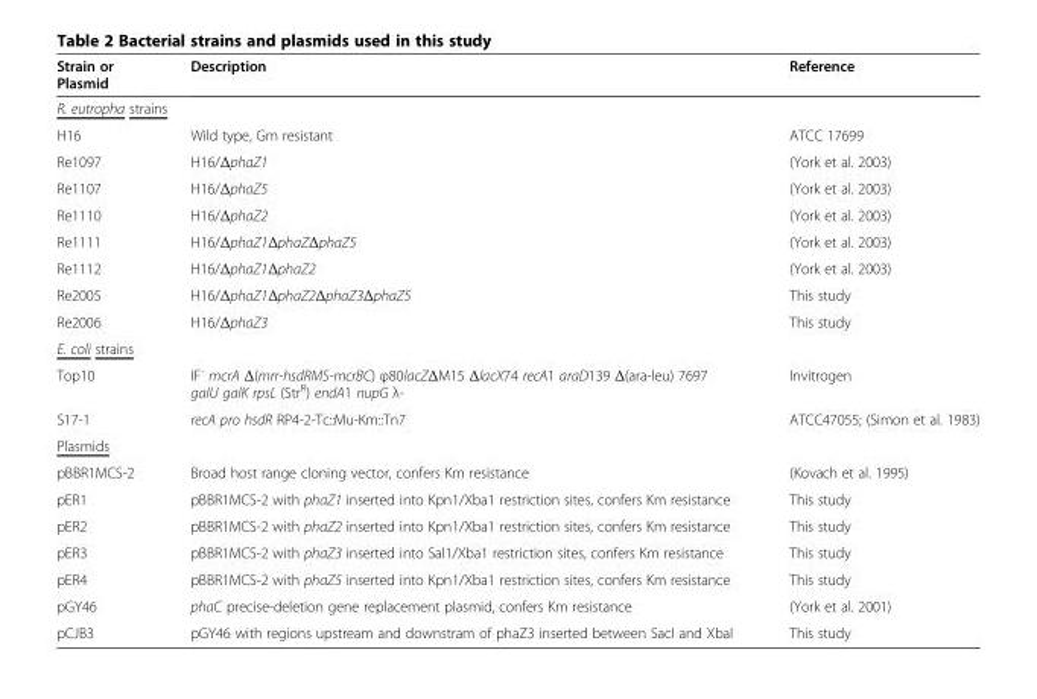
<table><thead><tr><td>Strain or Plasmid</td><td>Description</td><td>Reference</td></tr></thead><tbody><tr><td colspan="3">R. eutropha strains</td></tr><tr><td>H16</td><td>Wild type, Gm resistant</td><td>ATCC 17699</td></tr><tr><td>Re1097</td><td>H16/ΔphaZ1</td><td>(York et al. 2003)</td></tr><tr><td>Re1107</td><td>H16/ΔphaZ5</td><td>(York et al. 2003)</td></tr><tr><td>Re1110</td><td>H16/ΔphaZ2</td><td>(York et al. 2003)</td></tr><tr><td>Re1111</td><td>H16/ΔphaZ1ΔphaZΔphaZ5</td><td>(York et al. 2003)</td></tr><tr><td>Re1112</td><td>H16/ΔphaZ1ΔphaZ2</td><td>(York et al. 2003)</td></tr><tr><td>Re2005</td><td>H16/ΔphaZ1ΔphaZ2ΔphaZ3ΔphaZ5</td><td>This study</td></tr><tr><td>Re2006</td><td>H16/ΔphaZ3</td><td>This study</td></tr><tr><td colspan="3">E. coli strains</td></tr><tr><td>Top10</td><td>IF<sup>-</sup> mcrA Δ(mrr-hsdRMS-mcrBC) φ80lacZΔM15 ΔlacX74 recA1 araD139 Δ(ara-leu) 7697 galU galK rpsL (Str<sup>R</sup>) endA1 nupG λ-</td><td>Invitrogen</td></tr><tr><td>S17-1</td><td>recA pro hsdR RP4-2-Tc::Mu-Km::Tn7</td><td>ATCC47055; (Simon et al. 1983)</td></tr><tr><td colspan="3">Plasmids</td></tr><tr><td>pBBR1MCS-2</td><td>Broad host range cloning vector, confers Km resistance</td><td>(Kovach et al. 1995)</td></tr><tr><td>pER1</td><td>pBBR1MCS-2 with phaZ1 inserted into Kpn1/Xba1 restriction sites, confers Km resistance</td><td>This study</td></tr><tr><td>pER2</td><td>pBBR1MCS-2 with phaZ2 inserted into Kpn1/Xba1 restriction sites, confers Km resistance</td><td>This study</td></tr><tr><td>pER3</td><td>pBBR1MCS-2 with phaZ3 inserted into Sal1/Xba1 restriction sites, confers Km resistance</td><td>This study</td></tr><tr><td>pER4</td><td>pBBR1MCS-2 with phaZ5 inserted into Kpn1/Xba1 restriction sites, confers Km resistance</td><td>This study</td></tr><tr><td>pGY46</td><td>phaC precise-deletion gene replacement plasmid, confers Km resistance</td><td>(York et al. 2001)</td></tr><tr><td>pCJB3</td><td>pGY46 with regions upstream and downstram of phaZ3 inserted between SacI and XbaI</td><td>This study</td></tr></tbody></table>